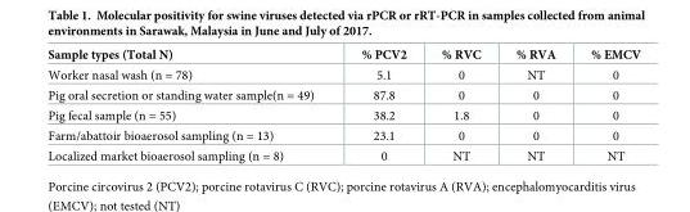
<table><thead><tr><td>Sample types (Total N)</td><td>% PCV2</td><td>% RVC</td><td>% RVA</td><td>% EMCV</td></tr></thead><tbody><tr><td>Worker nasal wash (n = 78)</td><td>5.1</td><td>0</td><td>NT</td><td>0</td></tr><tr><td>Pig oral secretion or standing water sample(n = 49)</td><td>87.8</td><td>0</td><td>0</td><td>0</td></tr><tr><td>Pig fecal sample (n = 55)</td><td>38.2</td><td>1.8</td><td>0</td><td>0</td></tr><tr><td>Farm/abattoir bioaerosol sampling (n = 13)</td><td>23.1</td><td>0</td><td>0</td><td>0</td></tr><tr><td>Localized market bioaerosol sampling (n = 8)</td><td>0</td><td>NT</td><td>NT</td><td>NT</td></tr></tbody></table>